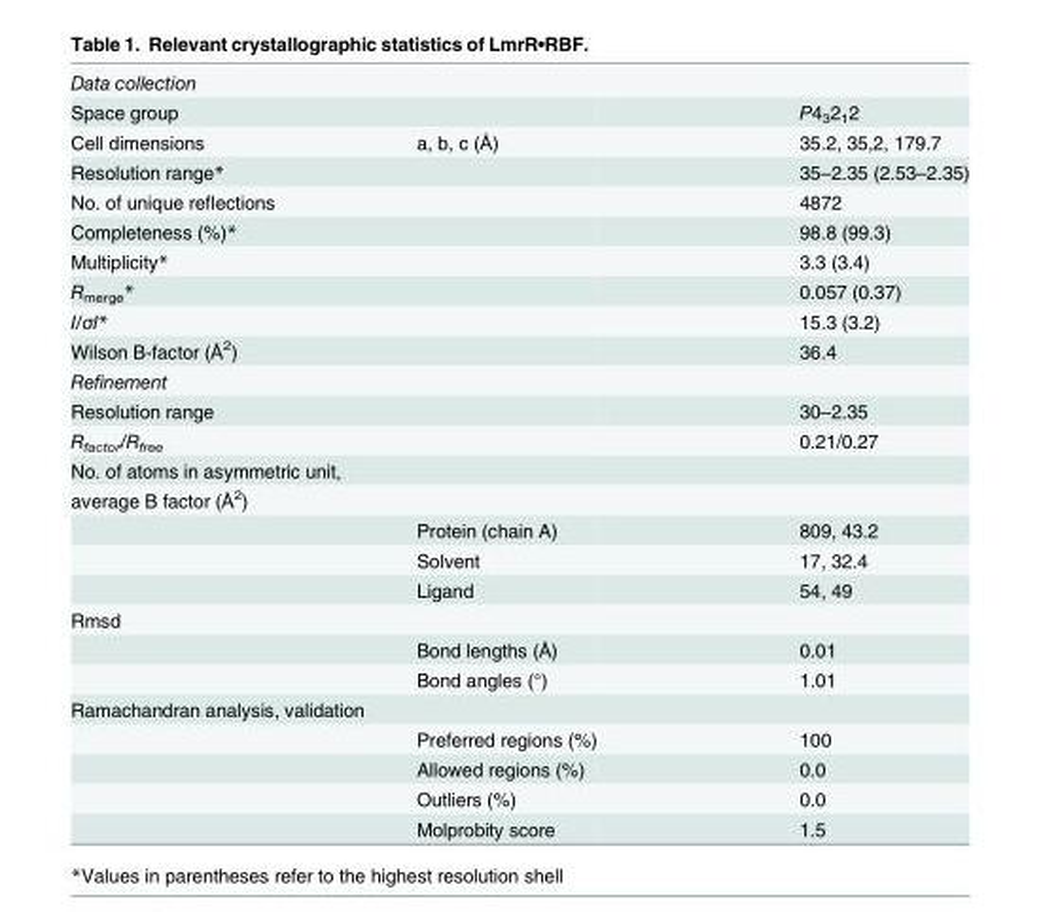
<table><tbody><tr><td colspan="3">Data collection</td></tr><tr><td colspan="2">Space group</td><td>P4<sub>3</sub>2<sub>1</sub>2</td></tr><tr><td>Cell dimensions</td><td>a, b, c (Å)</td><td>35.2, 35,2, 179.7</td></tr><tr><td colspan="2">Resolution range*</td><td>35–2.35 (2.53–2.35)</td></tr><tr><td colspan="2">No. of unique reflections</td><td>4872</td></tr><tr><td colspan="2">Completeness (%)*</td><td>98.8 (99.3)</td></tr><tr><td colspan="2">Multiplicity*</td><td>3.3 (3.4)</td></tr><tr><td colspan="2">R<sub>merge</sub>*</td><td>0.057 (0.37)</td></tr><tr><td colspan="2">I/σI*</td><td>15.3 (3.2)</td></tr><tr><td colspan="2">Wilson B-factor (Å<sup>2</sup>)</td><td>36.4</td></tr><tr><td colspan="3">Refinement</td></tr><tr><td>Resolution range</td><td></td><td>30–2.35</td></tr><tr><td>R<sub>factor</sub>/R<sub>free</sub></td><td></td><td>0.21/0.27</td></tr><tr><td colspan="3">No. of atoms in asymmetric unit,</td></tr><tr><td colspan="3">average B factor (Å<sup>2</sup>)</td></tr><tr><td></td><td>Protein (chain A)</td><td>809, 43.2</td></tr><tr><td></td><td>Solvent</td><td>17, 32.4</td></tr><tr><td></td><td>Ligand</td><td>54, 49</td></tr><tr><td colspan="3">Rmsd</td></tr><tr><td></td><td>Bond lengths (Å)</td><td>0.01</td></tr><tr><td></td><td>Bond angles (°)</td><td>1.01</td></tr><tr><td colspan="3">Ramachandran analysis, validation</td></tr><tr><td></td><td>Preferred regions (%)</td><td>100</td></tr><tr><td></td><td>Allowed regions (%)</td><td>0.0</td></tr><tr><td></td><td>Outliers (%)</td><td>0.0</td></tr><tr><td></td><td>Molprobity score</td><td>1.5</td></tr></tbody></table>